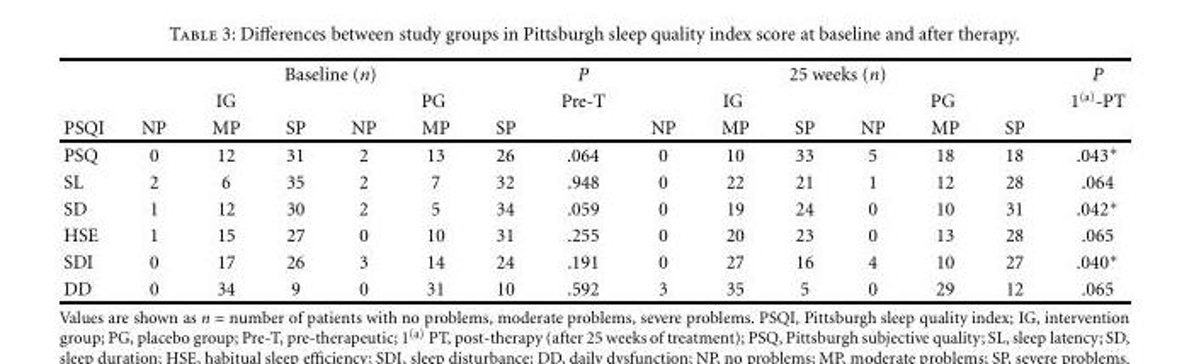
<table><thead><tr><td rowspan="3">PSQI</td><td colspan="6">Baseline (n)</td><td rowspan="3">P Pre-T</td><td colspan="6">25 weeks (n)</td><td rowspan="3">P 1<sup>(a)</sup>-PT</td></tr><tr><td colspan="3">IG</td><td colspan="3">PG</td><td colspan="3">IG</td><td colspan="3">PG</td></tr><tr><td>NP</td><td>MP</td><td>SP</td><td>NP</td><td>MP</td><td>SP</td><td>NP</td><td>MP</td><td>SP</td><td>NP</td><td>MP</td><td>SP</td></tr></thead><tbody><tr><td>PSQ</td><td>0</td><td>12</td><td>31</td><td>2</td><td>13</td><td>26</td><td>.064</td><td>0</td><td>10</td><td>33</td><td>5</td><td>18</td><td>18</td><td>.043∗</td></tr><tr><td>SL</td><td>2</td><td>6</td><td>35</td><td>2</td><td>7</td><td>32</td><td>.948</td><td>0</td><td>22</td><td>21</td><td>1</td><td>12</td><td>28</td><td>.064</td></tr><tr><td>SD</td><td>1</td><td>12</td><td>30</td><td>2</td><td>5</td><td>34</td><td>.059</td><td>0</td><td>19</td><td>24</td><td>0</td><td>10</td><td>31</td><td>.042∗</td></tr><tr><td>HSE</td><td>1</td><td>15</td><td>27</td><td>0</td><td>10</td><td>31</td><td>.255</td><td>0</td><td>20</td><td>23</td><td>0</td><td>13</td><td>28</td><td>.065</td></tr><tr><td>SDI</td><td>0</td><td>17</td><td>26</td><td>3</td><td>14</td><td>24</td><td>.191</td><td>0</td><td>27</td><td>16</td><td>4</td><td>10</td><td>27</td><td>.040∗</td></tr><tr><td>DD</td><td>0</td><td>34</td><td>9</td><td>0</td><td>31</td><td>10</td><td>.592</td><td>3</td><td>35</td><td>5</td><td>0</td><td>29</td><td>12</td><td>.065</td></tr></tbody></table>